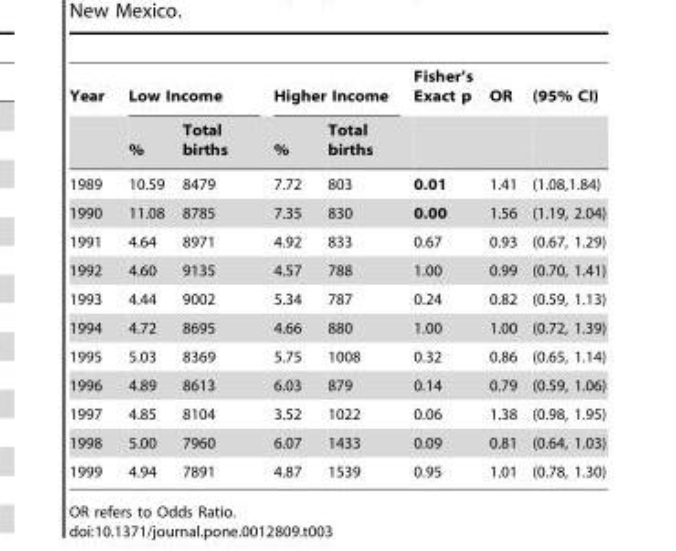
<table><thead><tr><td rowspan="2">Year</td><td colspan="2">Low Income</td><td colspan="2">Higher Income</td><td rowspan="2">Fisher’s Exact p</td><td rowspan="2">OR</td><td rowspan="2">(95% CI)</td></tr><tr><td>%</td><td>Total births</td><td>%</td><td>Total births</td></tr></thead><tbody><tr><td>1989</td><td>10.59</td><td>8479</td><td>7.72</td><td>803</td><td>0.01</td><td>1.41</td><td>(1.08,1.84)</td></tr><tr><td>1990</td><td>11.08</td><td>8785</td><td>7.35</td><td>830</td><td>0.00</td><td>1.56</td><td>(1.19, 2.04)</td></tr><tr><td>1991</td><td>4.64</td><td>8971</td><td>4.92</td><td>833</td><td>0.67</td><td>0.93</td><td>(0.67, 1.29)</td></tr><tr><td>1992</td><td>4.60</td><td>9135</td><td>4.57</td><td>788</td><td>1.00</td><td>0.99</td><td>(0.70, 1.41)</td></tr><tr><td>1993</td><td>4.44</td><td>9002</td><td>5.34</td><td>787</td><td>0.24</td><td>0.82</td><td>(0.59, 1.13)</td></tr><tr><td>1994</td><td>4.72</td><td>8695</td><td>4.66</td><td>880</td><td>1.00</td><td>1.00</td><td>(0.72, 1.39)</td></tr><tr><td>1995</td><td>5.03</td><td>8369</td><td>5.75</td><td>1008</td><td>0.32</td><td>0.86</td><td>(0.65, 1.14)</td></tr><tr><td>1996</td><td>4.89</td><td>8613</td><td>6.03</td><td>879</td><td>0.14</td><td>0.79</td><td>(0.59, 1.06)</td></tr><tr><td>1997</td><td>4.85</td><td>8104</td><td>3.52</td><td>1022</td><td>0.06</td><td>1.38</td><td>(0.98, 1.95)</td></tr><tr><td>1998</td><td>5.00</td><td>7960</td><td>6.07</td><td>1433</td><td>0.09</td><td>0.81</td><td>(0.64, 1.03)</td></tr><tr><td>1999</td><td>4.94</td><td>7891</td><td>4.87</td><td>1539</td><td>0.95</td><td>1.01</td><td>(0.78, 1.30)</td></tr></tbody></table>